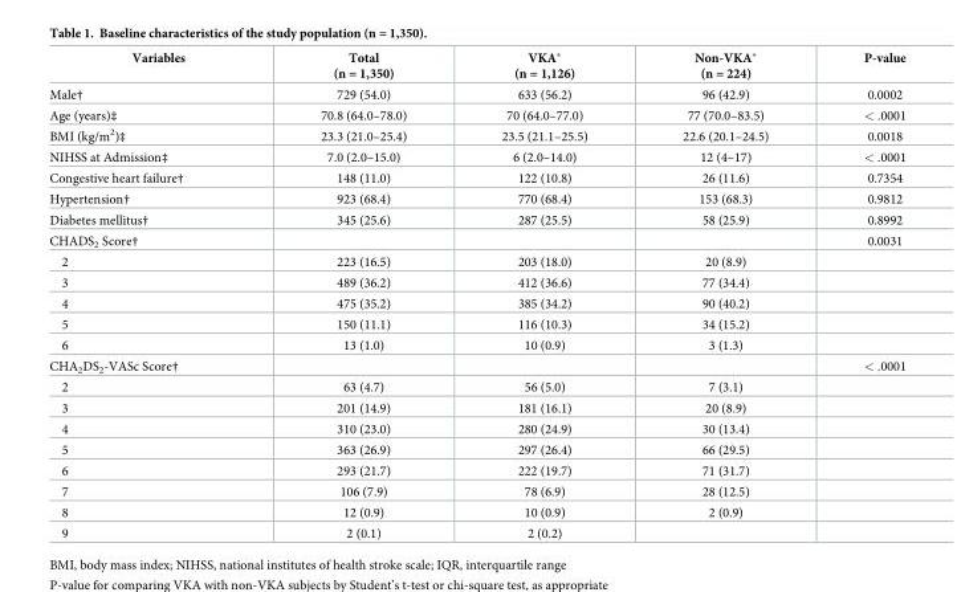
<table><thead><tr><td>Variables</td><td>Total (n = 1,350)</td><td>VKA* (n = 1,126)</td><td>Non-VKA* (n = 224)</td><td>P-value</td></tr></thead><tbody><tr><td>Male†</td><td>729 (54.0)</td><td>633 (56.2)</td><td>96 (42.9)</td><td>0.0002</td></tr><tr><td>Age (years)‡</td><td>70.8 (64.0–78.0)</td><td>70 (64.0–77.0)</td><td>77 (70.0–83.5)</td><td>&lt; .0001</td></tr><tr><td>BMI (kg/m<sup>2</sup>)‡</td><td>23.3 (21.0–25.4)</td><td>23.5 (21.1–25.5)</td><td>22.6 (20.1–24.5)</td><td>0.0018</td></tr><tr><td>NIHSS at Admission‡</td><td>7.0 (2.0–15.0)</td><td>6 (2.0–14.0)</td><td>12 (4–17)</td><td>&lt; .0001</td></tr><tr><td>Congestive heart failure†</td><td>148 (11.0)</td><td>122 (10.8)</td><td>26 (11.6)</td><td>0.7354</td></tr><tr><td>Hypertension†</td><td>923 (68.4)</td><td>770 (68.4)</td><td>153 (68.3)</td><td>0.9812</td></tr><tr><td>Diabetes mellitus†</td><td>345 (25.6)</td><td>287 (25.5)</td><td>58 (25.9)</td><td>0.8992</td></tr><tr><td>CHADS<sub>2</sub> Score†</td><td></td><td></td><td></td><td>0.0031</td></tr><tr><td>2</td><td>223 (16.5)</td><td>203 (18.0)</td><td>20 (8.9)</td><td></td></tr><tr><td>3</td><td>489 (36.2)</td><td>412 (36.6)</td><td>77 (34.4)</td><td></td></tr><tr><td>4</td><td>475 (35.2)</td><td>385 (34.2)</td><td>90 (40.2)</td><td></td></tr><tr><td>5</td><td>150 (11.1)</td><td>116 (10.3)</td><td>34 (15.2)</td><td></td></tr><tr><td>6</td><td>13 (1.0)</td><td>10 (0.9)</td><td>3 (1.3)</td><td></td></tr><tr><td>CHA<sub>2</sub>DS<sub>2</sub>-VASc Score†</td><td></td><td></td><td></td><td>&lt; .0001</td></tr><tr><td>2</td><td>63 (4.7)</td><td>56 (5.0)</td><td>7 (3.1)</td><td></td></tr><tr><td>3</td><td>201 (14.9)</td><td>181 (16.1)</td><td>20 (8.9)</td><td></td></tr><tr><td>4</td><td>310 (23.0)</td><td>280 (24.9)</td><td>30 (13.4)</td><td></td></tr><tr><td>5</td><td>363 (26.9)</td><td>297 (26.4)</td><td>66 (29.5)</td><td></td></tr><tr><td>6</td><td>293 (21.7)</td><td>222 (19.7)</td><td>71 (31.7)</td><td></td></tr><tr><td>7</td><td>106 (7.9)</td><td>78 (6.9)</td><td>28 (12.5)</td><td></td></tr><tr><td>8</td><td>12 (0.9)</td><td>10 (0.9)</td><td>2 (0.9)</td><td></td></tr><tr><td>9</td><td>2 (0.1)</td><td>2 (0.2)</td><td></td><td></td></tr></tbody></table>